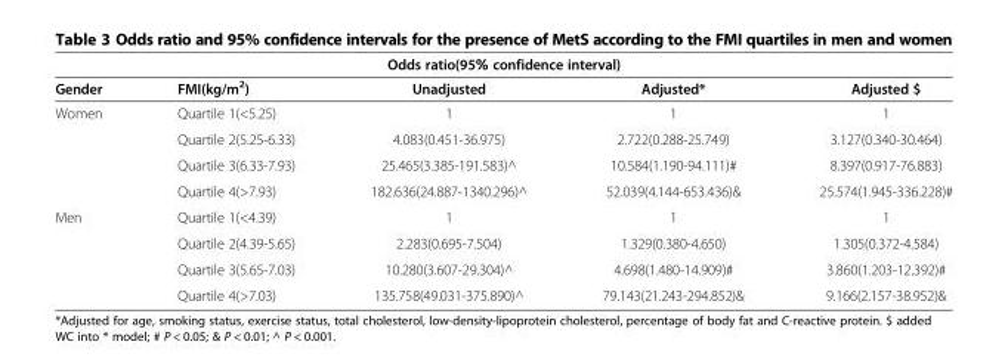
<table><thead><tr><td colspan="5">Odds ratio(95% confidence interval)</td></tr><tr><td>Gender</td><td>FMI(kg/m<sup>2</sup>)</td><td>Unadjusted</td><td>Adjusted*</td><td>Adjusted $</td></tr></thead><tbody><tr><td rowspan="4">Women</td><td>Quartile 1(&lt;5.25)</td><td>1</td><td>1</td><td>1</td></tr><tr><td>Quartile 2(5.25-6.33)</td><td>4.083(0.451-36.975)</td><td>2.722(0.288-25.749)</td><td>3.127(0.340-30.464)</td></tr><tr><td>Quartile 3(6.33-7.93)</td><td>25.465(3.385-191.583)^</td><td>10.584(1.190-94.111)#</td><td>8.397(0.917-76.883)</td></tr><tr><td>Quartile 4(&gt;7.93)</td><td>182.636(24.887-1340.296)^</td><td>52.039(4.144-653.436)&amp;</td><td>25.574(1.945-336.228)#</td></tr><tr><td rowspan="4">Men</td><td>Quartile 1(&lt;4.39)</td><td>1</td><td>1</td><td>1</td></tr><tr><td>Quartile 2(4.39-5.65)</td><td>2.283(0.695-7.504)</td><td>1.329(0.380-4.650)</td><td>1.305(0.372-4.584)</td></tr><tr><td>Quartile 3(5.65-7.03)</td><td>10.280(3.607-29.304)^</td><td>4.698(1.480-14.909)#</td><td>3.860(1.203-12.392)#</td></tr><tr><td>Quartile 4(&gt;7.03)</td><td>135.758(49.031-375.890)^</td><td>79.143(21.243-294.852)&amp;</td><td>9.166(2.157-38.952)&amp;</td></tr></tbody></table>